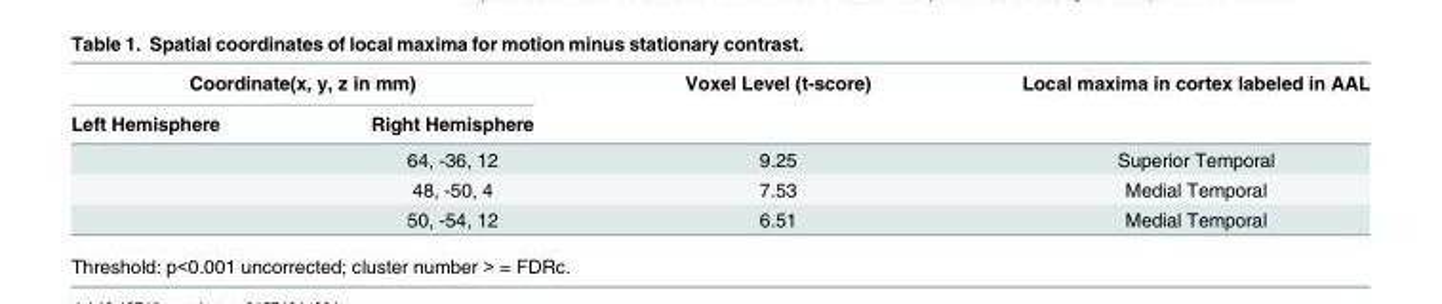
<table><thead><tr><td colspan="2">Coordinate(x, y, z in mm)</td><td rowspan="2">Voxel Level (t-score)</td><td rowspan="2">Local maxima in cortex labeled in AAL</td></tr><tr><td>Left Hemisphere</td><td>Right Hemisphere</td></tr></thead><tbody><tr><td></td><td>64, -36, 12</td><td>9.25</td><td>Superior Temporal</td></tr><tr><td></td><td>48, -50, 4</td><td>7.53</td><td>Medial Temporal</td></tr><tr><td></td><td>50, -54, 12</td><td>6.51</td><td>Medial Temporal</td></tr></tbody></table>